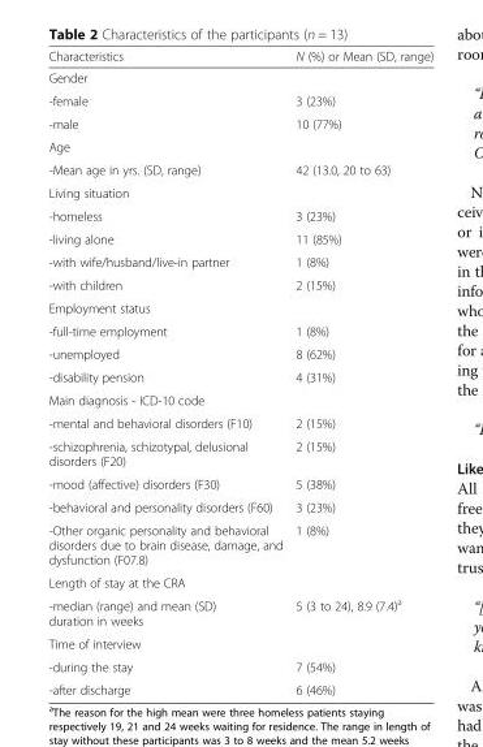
<table><thead><tr><td>Characteristics</td><td>N (%) or Mean (SD, range)</td></tr></thead><tbody><tr><td colspan="2">Gender</td></tr><tr><td>-female</td><td>3 (23%)</td></tr><tr><td>-male</td><td>10 (77%)</td></tr><tr><td colspan="2">Age</td></tr><tr><td>-Mean age in yrs. (SD, range)</td><td>42 (13.0, 20 to 63)</td></tr><tr><td colspan="2">Living situation</td></tr><tr><td>-homeless</td><td>3 (23%)</td></tr><tr><td>-living alone</td><td>11 (85%)</td></tr><tr><td>-with wife/husband/live-in partner</td><td>1 (8%)</td></tr><tr><td>-with children</td><td>2 (15%)</td></tr><tr><td colspan="2">Employment status</td></tr><tr><td>-full-time employment</td><td>1 (8%)</td></tr><tr><td>-unemployed</td><td>8 (62%)</td></tr><tr><td>-disability pension</td><td>4 (31%)</td></tr><tr><td colspan="2">Main diagnosis - ICD-10 code</td></tr><tr><td>-mental and behavioral disorders (F10)</td><td>2 (15%)</td></tr><tr><td>-schizophrenia, schizotypal, delusional disorders (F20)</td><td>2 (15%)</td></tr><tr><td>-mood (affective) disorders (F30)</td><td>5 (38%)</td></tr><tr><td>-behavioral and personality disorders (F60)</td><td>3 (23%)</td></tr><tr><td>-Other organic personality and behavioral disorders due to brain disease, damage, and dysfunction (F07.8)</td><td>1 (8%)</td></tr><tr><td colspan="2">Length of stay at the CRA</td></tr><tr><td>-median (range) and mean (SD) duration in weeks</td><td>5 (3 to 24), 8.9 (7.4)<sup>a</sup></td></tr><tr><td colspan="2">Time of interview</td></tr><tr><td>-during the stay</td><td>7 (54%)</td></tr><tr><td>-after discharge</td><td>6 (46%)</td></tr></tbody></table>